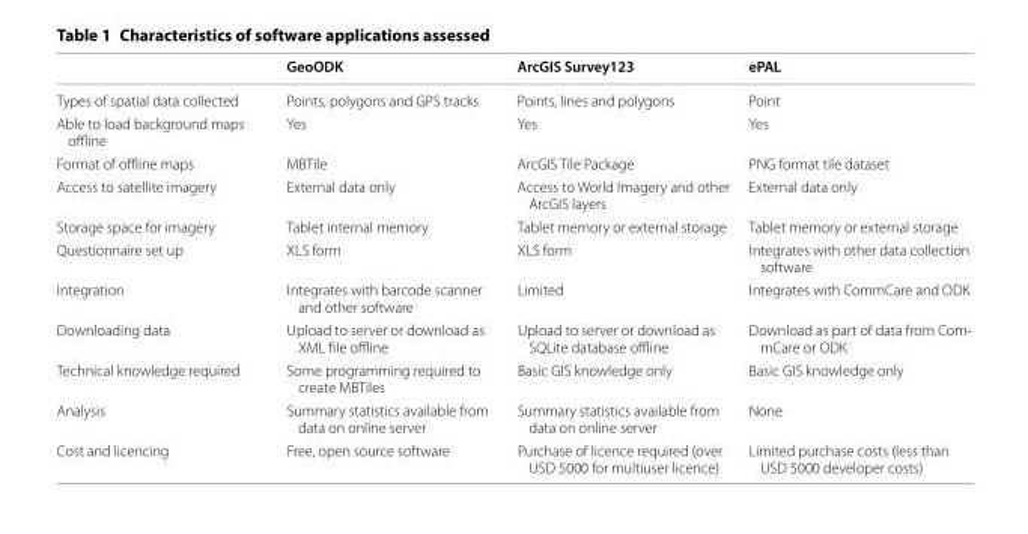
<table><thead><tr><td></td><td>GeoODK</td><td>ArcGIS Survey123</td><td>ePAL</td></tr></thead><tbody><tr><td>Types of spatial data collected</td><td>Points, polygons and GPS tracks</td><td>Points, lines and polygons</td><td>Point</td></tr><tr><td>Able to load background maps offline</td><td>Yes</td><td>Yes</td><td>Yes</td></tr><tr><td>Format of offline maps</td><td>MBTile</td><td>ArcGIS Tile Package</td><td>PNG format tile dataset</td></tr><tr><td>Access to satellite imagery</td><td>External data only</td><td>Access to World Imagery and other ArcGIS layers</td><td>External data only</td></tr><tr><td>Storage space for imagery</td><td>Tablet internal memory</td><td>Tablet memory or external storage</td><td>Tablet memory or external storage</td></tr><tr><td>Questionnaire set up</td><td>XLS form</td><td>XLS form</td><td>Integrates with other data collection software</td></tr><tr><td>Integration</td><td>Integrates with barcode scanner and other software</td><td>Limited</td><td>Integrates with CommCare and ODK</td></tr><tr><td>Downloading data</td><td>Upload to server or download as XML file offline</td><td>Upload to server or download as SQLite database offline</td><td>Download as part of data from Com- mCare or ODK</td></tr><tr><td>Technical knowledge required</td><td>Some programming required to create MBTiles</td><td>Basic GIS knowledge only</td><td>Basic GIS knowledge only</td></tr><tr><td>Analysis</td><td>Summary statistics available from data on online server</td><td>Summary statistics available from data on online server</td><td>None</td></tr><tr><td>Cost and licencing</td><td>Free, open source software</td><td>Purchase of licence required (over USD 5000 for multiuser licence)</td><td>Limited purchase costs (less than USD 5000 developer costs)</td></tr></tbody></table>